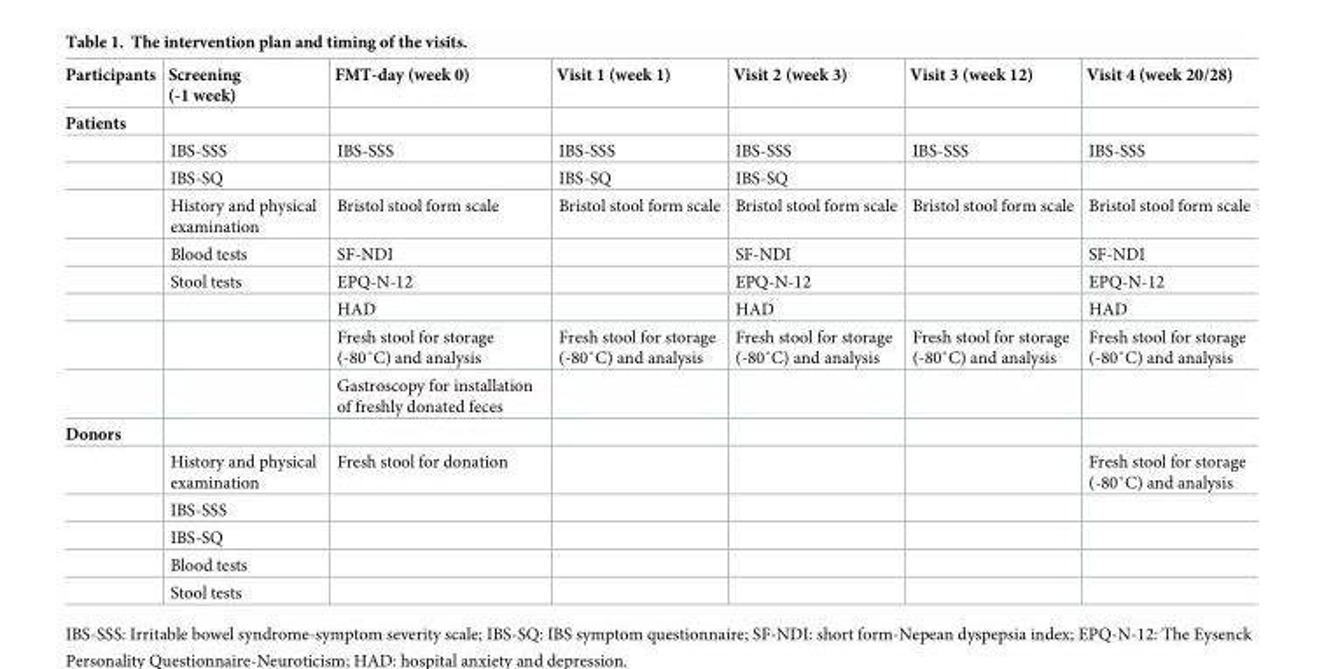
<table><thead><tr><td>Participants</td><td>Screening (-1 week)</td><td>FMT-day (week 0)</td><td>Visit 1 (week 1)</td><td>Visit 2 (week 3)</td><td>Visit 3 (week 12)</td><td>Visit 4 (week 20/28)</td></tr></thead><tbody><tr><td colspan="7">Patients</td></tr><tr><td></td><td>IBS-SSS</td><td>IBS-SSS</td><td>IBS-SSS</td><td>IBS-SSS</td><td>IBS-SSS</td><td>IBS-SSS</td></tr><tr><td></td><td>IBS-SQ</td><td></td><td>IBS-SQ</td><td>IBS-SQ</td><td></td><td></td></tr><tr><td></td><td>History and physical examination</td><td>Bristol stool form scale</td><td>Bristol stool form scale</td><td>Bristol stool form scale</td><td>Bristol stool form scale</td><td>Bristol stool form scale</td></tr><tr><td></td><td>Blood tests</td><td>SF-NDI</td><td></td><td>SF-NDI</td><td></td><td>SF-NDI</td></tr><tr><td></td><td>Stool tests</td><td>EPQ-N-12</td><td></td><td>EPQ-N-12</td><td></td><td>EPQ-N-12</td></tr><tr><td></td><td></td><td>HAD</td><td></td><td>HAD</td><td></td><td>HAD</td></tr><tr><td></td><td></td><td>Fresh stool for storage (-80˚C) and analysis</td><td>Fresh stool for storage (-80˚C) and analysis</td><td>Fresh stool for storage (-80˚C) and analysis</td><td>Fresh stool for storage (-80˚C) and analysis</td><td>Fresh stool for storage (-80˚C) and analysis</td></tr><tr><td></td><td></td><td>Gastroscopy for installation of freshly donated feces</td><td></td><td></td><td></td><td></td></tr><tr><td colspan="7">Donors</td></tr><tr><td></td><td>History and physical examination</td><td>Fresh stool for donation</td><td></td><td></td><td></td><td>Fresh stool for storage (-80˚C) and analysis</td></tr><tr><td></td><td>IBS-SSS</td><td></td><td></td><td></td><td></td><td></td></tr><tr><td></td><td>IBS-SQ</td><td></td><td></td><td></td><td></td><td></td></tr><tr><td></td><td>Blood tests</td><td></td><td></td><td></td><td></td><td></td></tr><tr><td></td><td>Stool tests</td><td></td><td></td><td></td><td></td><td></td></tr></tbody></table>